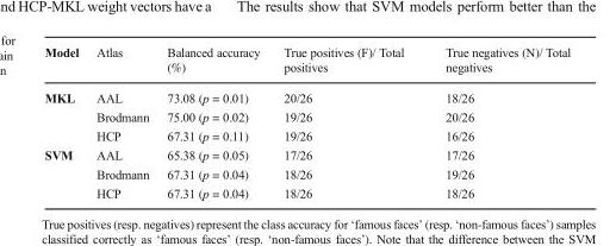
<table><thead><tr><td>Model</td><td>Atlas</td><td>Balanced accuracy (%)</td><td>True positives (F)/ Total positives</td><td>True negatives (N)/ Total negatives</td></tr></thead><tbody><tr><td rowspan="3">MKL</td><td>AAL</td><td>73.08 (p = 0.01)</td><td>20/26</td><td>18/26</td></tr><tr><td>Brodmann</td><td>75.00 (p = 0.02)</td><td>19/26</td><td>20/26</td></tr><tr><td>HCP</td><td>67.31 (p = 0.11)</td><td>19/26</td><td>16/26</td></tr><tr><td rowspan="3">SVM</td><td>AAL</td><td>65.38 (p = 0.05)</td><td>17/26</td><td>17/26</td></tr><tr><td>Brodmann</td><td>67.31 (p = 0.04)</td><td>18/26</td><td>19/26</td></tr><tr><td>HCP</td><td>67.31 (p = 0.04)</td><td>18/26</td><td>18/26</td></tr></tbody></table>